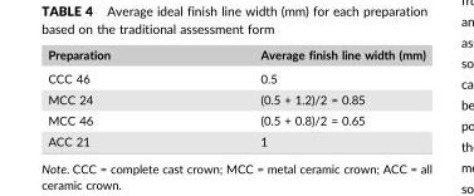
<table><thead><tr><td>Preparation</td><td>Average finish line width (mm)</td></tr></thead><tbody><tr><td>CCC 46</td><td>0.5</td></tr><tr><td>MCC 24</td><td>(0.5 + 1.2)/2 = 0.85</td></tr><tr><td>MCC 46</td><td>(0.5 + 0.8)/2 = 0.65</td></tr><tr><td>ACC 21</td><td>1</td></tr></tbody></table>